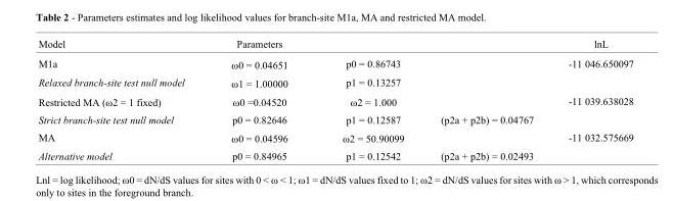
<table><thead><tr><td>Model</td><td>Parameters</td><td></td><td></td><td>lnL</td></tr></thead><tbody><tr><td>M1a</td><td>ω0 = 0.04651</td><td>p0 = 0.86743</td><td></td><td>-11 046.650097</td></tr><tr><td>Relaxed branch-site test null model</td><td>ω1 = 1.00000</td><td>p1 = 0.13257</td><td></td><td></td></tr><tr><td>Restricted MA (ω2 = 1 fixed)</td><td>ω0 =0.04520</td><td>ω2 = 1.000</td><td></td><td>-11 039.638028</td></tr><tr><td>Strict branch-site test null model</td><td>p0 = 0.82646</td><td>p1 = 0.12587</td><td>(p2a + p2b) = 0.04767</td><td></td></tr><tr><td>MA</td><td>ω0 = 0.04596</td><td>ω2 = 50.90099</td><td></td><td>-11 032.575669</td></tr><tr><td>Alternative model</td><td>p0 = 0.84965</td><td>p1 = 0.12542</td><td>(p2a + p2b) = 0.02493</td><td></td></tr></tbody></table>